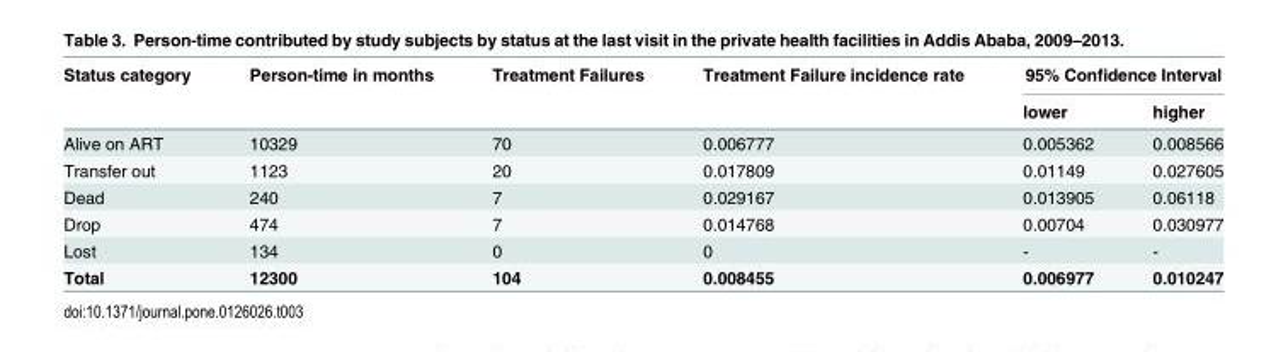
<table><thead><tr><td rowspan="2">Status category</td><td rowspan="2">Person-time in months</td><td rowspan="2">Treatment Failures</td><td rowspan="2">Treatment Failure incidence rate</td><td colspan="2">95% Confidence Interval</td></tr><tr><td>lower</td><td>higher</td></tr></thead><tbody><tr><td>Alive on ART</td><td>10329</td><td>70</td><td>0.006777</td><td>0.005362</td><td>0.008566</td></tr><tr><td>Transfer out</td><td>1123</td><td>20</td><td>0.017809</td><td>0.01149</td><td>0.027605</td></tr><tr><td>Dead</td><td>240</td><td>7</td><td>0.029167</td><td>0.013905</td><td>0.06118</td></tr><tr><td>Drop</td><td>474</td><td>7</td><td>0.014768</td><td>0.00704</td><td>0.030977</td></tr><tr><td>Lost</td><td>134</td><td>0</td><td>0</td><td>-</td><td>-</td></tr><tr><td>Total</td><td>12300</td><td>104</td><td>0.008455</td><td>0.006977</td><td>0.010247</td></tr></tbody></table>